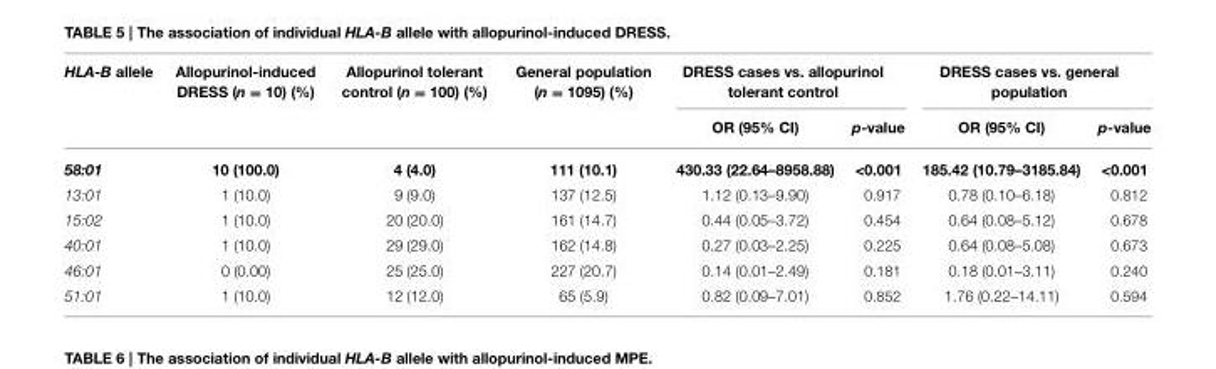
<table><thead><tr><td rowspan="2">HLA-B allele</td><td rowspan="2">Allopurinol-induced DRESS (n = 10) (%)</td><td rowspan="2">Allopurinol tolerant control (n = 100) (%)</td><td rowspan="2">General population (n = 1095) (%)</td><td colspan="2">DRESS cases vs. allopurinol tolerant control</td><td colspan="2">DRESS cases vs. general population</td></tr><tr><td>OR (95% CI)</td><td>p-value</td><td>OR (95% CI)</td><td>p-value</td></tr></thead><tbody><tr><td>58:01</td><td>10 (100.0)</td><td>4 (4.0)</td><td>111 (10.1)</td><td>430.33 (22.64–8958.88)</td><td>&lt;0.001</td><td>185.42 (10.79–3185.84)</td><td>&lt;0.001</td></tr><tr><td>13:01</td><td>1 (10.0)</td><td>9 (9.0)</td><td>137 (12.5)</td><td>1.12 (0.13–9.90)</td><td>0.917</td><td>0.78 (0.10–6.18)</td><td>0.812</td></tr><tr><td>15:02</td><td>1 (10.0)</td><td>20 (20.0)</td><td>161 (14.7)</td><td>0.44 (0.05–3.72)</td><td>0.454</td><td>0.64 (0.08–5.12)</td><td>0.678</td></tr><tr><td>40:01</td><td>1 (10.0)</td><td>29 (29.0)</td><td>162 (14.8)</td><td>0.27 (0.03–2.25)</td><td>0.225</td><td>0.64 (0.08–5.08)</td><td>0.673</td></tr><tr><td>46:01</td><td>0 (0.00)</td><td>25 (25.0)</td><td>227 (20.7)</td><td>0.14 (0.01–2.49)</td><td>0.181</td><td>0.18 (0.01–3.11)</td><td>0.240</td></tr><tr><td>51:01</td><td>1 (10.0)</td><td>12 (12.0)</td><td>65 (5.9)</td><td>0.82 (0.09–7.01)</td><td>0.852</td><td>1.76 (0.22–14.11)</td><td>0.594</td></tr></tbody></table>